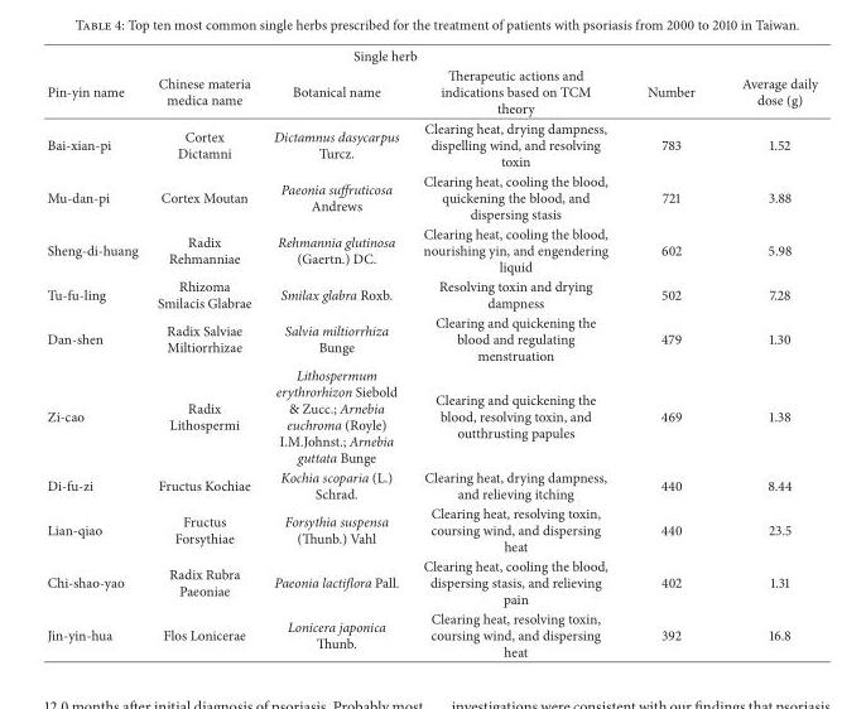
<table><thead><tr><td colspan="6">Single herb</td></tr><tr><td>Pin-yin name</td><td>Chinese materia medica name</td><td>Botanical name</td><td>Therapeutic actions and indications based on TCM theory</td><td>Number</td><td>Average daily dose (g)</td></tr></thead><tbody><tr><td>Bai-xian-pi</td><td>Cortex Dictamni</td><td>Dictamnus dasycarpus Turcz.</td><td>Clearing heat, drying dampness, dispelling wind, and resolving toxin</td><td>783</td><td>1.52</td></tr><tr><td>Mu-dan-pi</td><td>Cortex Moutan</td><td>Paeonia suffruticosa Andrews</td><td>Clearing heat, cooling the blood, quickening the blood, and dispersing stasis</td><td>721</td><td>3.88</td></tr><tr><td>Sheng-di-huang</td><td>Radix Rehmanniae</td><td>Rehmannia glutinosa (Gaertn.) DC.</td><td>Clearing heat, cooling the blood, nourishing yin, and engendering liquid</td><td>602</td><td>5.98</td></tr><tr><td>Tu-fu-ling</td><td>Rhizoma Smilacis Glabrae</td><td>Smilax glabra Roxb.</td><td>Resolving toxin and drying dampness</td><td>502</td><td>7.28</td></tr><tr><td>Dan-shen</td><td>Radix Salviae Miltiorrhizae</td><td>Salvia miltiorrhiza Bunge</td><td>Clearing and quickening the blood and regulating menstruation</td><td>479</td><td>1.30</td></tr><tr><td>Zi-cao</td><td>Radix Lithospermi</td><td>Lithospermum erythrorhizon Siebold &amp; Zucc.; Arnebia euchroma (Royle) I.M.Johnst.; Arnebia guttata Bunge</td><td>Clearing and quickening the blood, resolving toxin, and outthrusting papules</td><td>469</td><td>1.38</td></tr><tr><td>Di-fu-zi</td><td>Fructus Kochiae</td><td>Kochia scoparia (L.) Schrad.</td><td>Clearing heat, drying dampness, and relieving itching</td><td>440</td><td>8.44</td></tr><tr><td>Lian-qiao</td><td>Fructus Forsythiae</td><td>Forsythia suspensa (Thunb.) Vahl</td><td>Clearing heat, resolving toxin, coursing wind, and dispersing heat</td><td>440</td><td>23.5</td></tr><tr><td>Chi-shao-yao</td><td>Radix Rubra Paeoniae</td><td>Paeonia lactiflora Pall.</td><td>Clearing heat, cooling the blood, dispersing stasis, and relieving pain</td><td>402</td><td>1.31</td></tr><tr><td>Jin-yin-hua</td><td>Flos Lonicerae</td><td>Lonicera japonica Thunb.</td><td>Clearing heat, resolving toxin, coursing wind, and dispersing heat</td><td>392</td><td>16.8</td></tr></tbody></table>